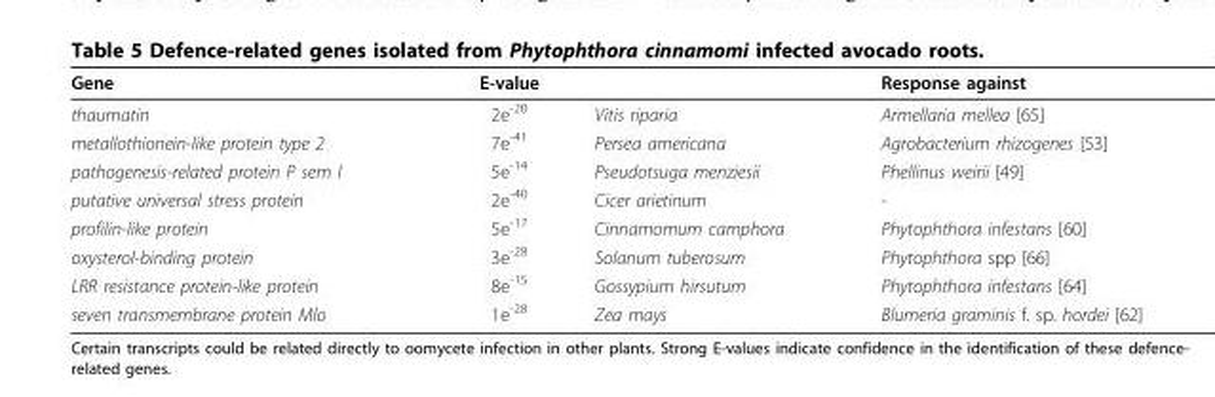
<table><thead><tr><td>Gene</td><td>E-value</td><td></td><td>Response against</td></tr></thead><tbody><tr><td>thaumatin</td><td>2e<sup>-20</sup></td><td>Vitis riparia</td><td>Armellaria mellea [65]</td></tr><tr><td>metallothionein-like protein type 2</td><td>7e<sup>-41</sup></td><td>Persea americana</td><td>Agrobacterium rhizogenes [53]</td></tr><tr><td>pathogenesis-related protein P sem I</td><td>5e<sup>-14</sup></td><td>Pseudotsuga menziesii</td><td>Phellinus weirii [49]</td></tr><tr><td>putative universal stress protein</td><td>2e<sup>-40</sup></td><td>Cicer arietinum</td><td>-</td></tr><tr><td>profilin-like protein</td><td>5e<sup>-17</sup></td><td>Cinnamomum camphora</td><td>Phytophthora infestans [60]</td></tr><tr><td>oxysterol-binding protein</td><td>3e<sup>-28</sup></td><td>Solanum tuberosum</td><td>Phytophthora spp [66]</td></tr><tr><td>LRR resistance protein-like protein</td><td>8e<sup>-15</sup></td><td>Gossypium hirsutum</td><td>Phytophthora infestans [64]</td></tr><tr><td>seven transmembrane protein Mlo</td><td>1e<sup>-28</sup></td><td>Zea mays</td><td>Blumeria graminis f. sp. hordei [62]</td></tr></tbody></table>